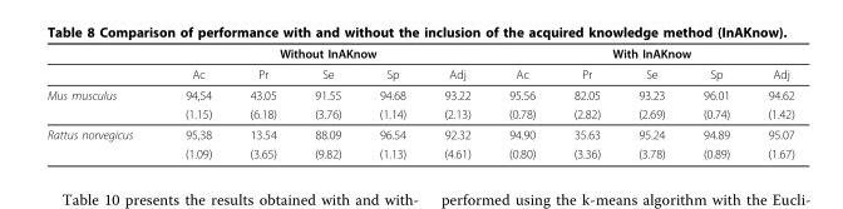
<table><thead><tr><td rowspan="2"></td><td colspan="5">Without InAKnow</td><td colspan="5">With InAKnow</td></tr><tr><td>Ac</td><td>Pr</td><td>Se</td><td>Sp</td><td>Adj</td><td>Ac</td><td>Pr</td><td>Se</td><td>Sp</td><td>Adj</td></tr></thead><tbody><tr><td rowspan="2">Mus musculus</td><td>94,54</td><td>43.05</td><td>91.55</td><td>94.68</td><td>93.22</td><td>95.56</td><td>82.05</td><td>93.23</td><td>96.01</td><td>94.62</td></tr><tr><td>(1.15)</td><td>(6.18)</td><td>(3.76)</td><td>(1.14)</td><td>(2.13)</td><td>(0.78)</td><td>(2.82)</td><td>(2.69)</td><td>(0.74)</td><td>(1.42)</td></tr><tr><td rowspan="2">Rattus norvegicus</td><td>95,38</td><td>13.54</td><td>88.09</td><td>96.54</td><td>92.32</td><td>94.90</td><td>35.63</td><td>95.24</td><td>94.89</td><td>95.07</td></tr><tr><td>(1.09)</td><td>(3.65)</td><td>(9.82)</td><td>(1.13)</td><td>(4.61)</td><td>(0.80)</td><td>(3.36)</td><td>(3.78)</td><td>(0.89)</td><td>(1.67)</td></tr></tbody></table>